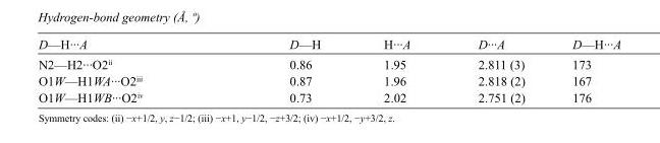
<table><tbody><tr><td>D—H···A</td><td>D—H</td><td>H···A</td><td>D···A</td><td>D—H···A</td></tr><tr><td>N2—H2···O2<sup>ii</sup></td><td>0.86</td><td>1.95</td><td>2.811 (3)</td><td>173</td></tr><tr><td>O1W—H1WA···O2<sup>iii</sup></td><td>0.87</td><td>1.96</td><td>2.818 (2)</td><td>167</td></tr><tr><td>O1W—H1WB···O2<sup>iv</sup></td><td>0.73</td><td>2.02</td><td>2.751 (2)</td><td>176</td></tr></tbody></table>